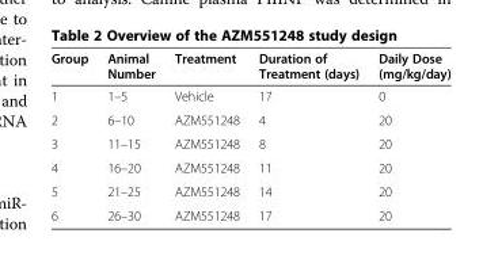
<table><thead><tr><td>Group</td><td>Animal Number</td><td>Treatment</td><td>Duration of Treatment (days)</td><td>Daily Dose (mg/kg/day)</td></tr></thead><tbody><tr><td>1</td><td>1–5</td><td>Vehicle</td><td>17</td><td>0</td></tr><tr><td>2</td><td>6–10</td><td>AZM551248</td><td>4</td><td>20</td></tr><tr><td>3</td><td>11–15</td><td>AZM551248</td><td>8</td><td>20</td></tr><tr><td>4</td><td>16–20</td><td>AZM551248</td><td>11</td><td>20</td></tr><tr><td>5</td><td>21–25</td><td>AZM551248</td><td>14</td><td>20</td></tr><tr><td>6</td><td>26–30</td><td>AZM551248</td><td>17</td><td>20</td></tr></tbody></table>